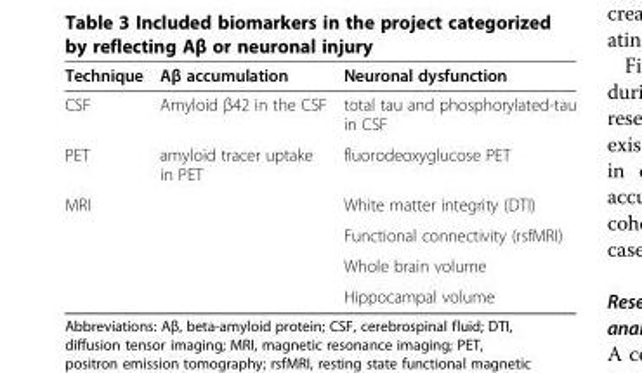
<table><thead><tr><td>Technique</td><td>Aβ accumulation</td><td>Neuronal dysfunction</td></tr></thead><tbody><tr><td>CSF</td><td>Amyloid β42 in the CSF</td><td>total tau and phosphorylated-tau in CSF</td></tr><tr><td>PET</td><td>amyloid tracer uptake in PET</td><td>fluorodeoxyglucose PET</td></tr><tr><td rowspan="4">MRI</td><td rowspan="3"></td><td>White matter integrity (DTI)</td></tr><tr><td>Functional connectivity (rsfMRI)</td></tr><tr><td>Whole brain volume</td></tr><tr><td></td><td>Hippocampal volume</td></tr></tbody></table>